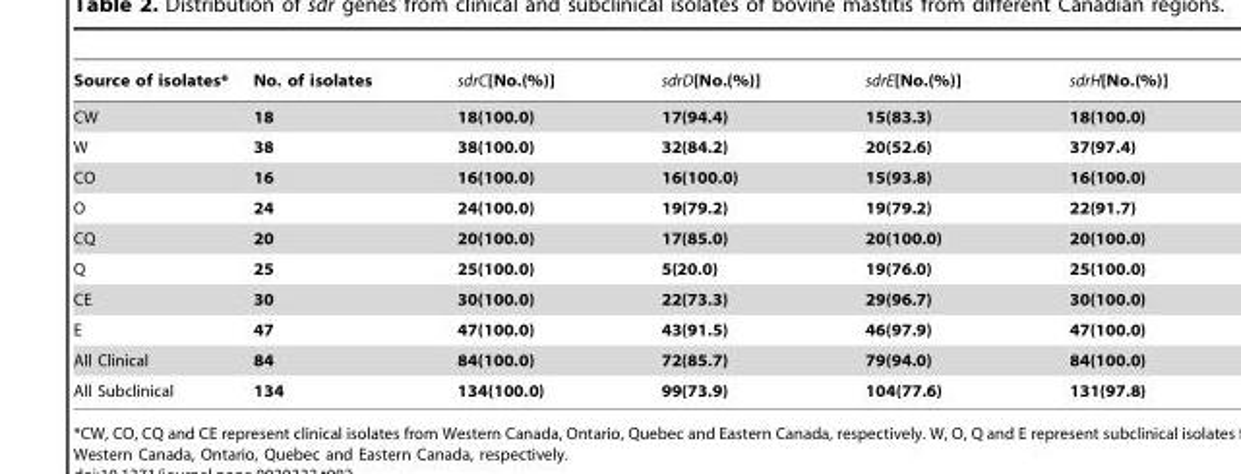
<table><thead><tr><td>Source of isolates*</td><td>No. of isolates</td><td>sdrC[No.(%)]</td><td>sdrD[No.(%)]</td><td>sdrE[No.(%)]</td><td>sdrH[No.(%)]</td></tr></thead><tbody><tr><td>CW</td><td>18</td><td>18(100.0)</td><td>17(94.4)</td><td>15(83.3)</td><td>18(100.0)</td></tr><tr><td>W</td><td>38</td><td>38(100.0)</td><td>32(84.2)</td><td>20(52.6)</td><td>37(97.4)</td></tr><tr><td>CO</td><td>16</td><td>16(100.0)</td><td>16(100.0)</td><td>15(93.8)</td><td>16(100.0)</td></tr><tr><td>O</td><td>24</td><td>24(100.0)</td><td>19(79.2)</td><td>19(79.2)</td><td>22(91.7)</td></tr><tr><td>CQ</td><td>20</td><td>20(100.0)</td><td>17(85.0)</td><td>20(100.0)</td><td>20(100.0)</td></tr><tr><td>Q</td><td>25</td><td>25(100.0)</td><td>5(20.0)</td><td>19(76.0)</td><td>25(100.0)</td></tr><tr><td>CE</td><td>30</td><td>30(100.0)</td><td>22(73.3)</td><td>29(96.7)</td><td>30(100.0)</td></tr><tr><td>E</td><td>47</td><td>47(100.0)</td><td>43(91.5)</td><td>46(97.9)</td><td>47(100.0)</td></tr><tr><td>All Clinical</td><td>84</td><td>84(100.0)</td><td>72(85.7)</td><td>79(94.0)</td><td>84(100.0)</td></tr><tr><td>All Subclinical</td><td>134</td><td>134(100.0)</td><td>99(73.9)</td><td>104(77.6)</td><td>131(97.8)</td></tr></tbody></table>